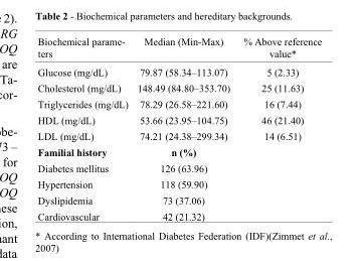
<table><thead><tr><td>Biochemical parame- ters</td><td>Median (Min-Max)</td><td>% Above reference value*</td></tr></thead><tbody><tr><td>Glucose (mg/dL)</td><td>79.87 (58.34–113.07)</td><td>5 (2.33)</td></tr><tr><td>Cholesterol (mg/dL)</td><td>148.49 (84.80–353.70)</td><td>25 (11.63)</td></tr><tr><td>Triglycerides (mg/dL)</td><td>78.29 (26.58–221.60)</td><td>16 (7.44)</td></tr><tr><td>HDL (mg/dL)</td><td>53.66 (23.95–104.75)</td><td>46 (21.40)</td></tr><tr><td>LDL (mg/dL)</td><td>74.21 (24.38–299.34)</td><td>14 (6.51)</td></tr><tr><td>Familial history</td><td>n (%)</td><td></td></tr><tr><td>Diabetes mellitus</td><td>126 (63.96)</td><td></td></tr><tr><td>Hypertension</td><td>118 (59.90)</td><td></td></tr><tr><td>Dyslipidemia</td><td>73 (37.06)</td><td></td></tr><tr><td>Cardiovascular</td><td>42 (21.32)</td><td></td></tr></tbody></table>